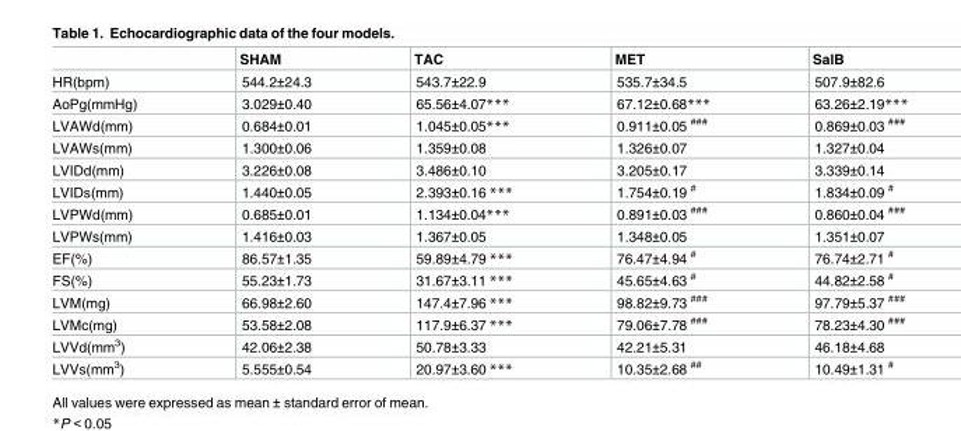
<table><thead><tr><td></td><td>SHAM</td><td>TAC</td><td>MET</td><td>SalB</td></tr></thead><tbody><tr><td>HR(bpm)</td><td>544.2±24.3</td><td>543.7±22.9</td><td>535.7±34.5</td><td>507.9±82.6</td></tr><tr><td>AoPg(mmHg)</td><td>3.029±0.40</td><td>65.56±4.07***</td><td>67.12±0.68***</td><td>63.26±2.19***</td></tr><tr><td>LVAWd(mm)</td><td>0.684±0.01</td><td>1.045±0.05***</td><td>0.911±0.05 <sup>###</sup></td><td>0.869±0.03 <sup>###</sup></td></tr><tr><td>LVAWs(mm)</td><td>1.300±0.06</td><td>1.359±0.08</td><td>1.326±0.07</td><td>1.327±0.04</td></tr><tr><td>LVIDd(mm)</td><td>3.226±0.08</td><td>3.486±0.10</td><td>3.205±0.17</td><td>3.339±0.14</td></tr><tr><td>LVIDs(mm)</td><td>1.440±0.05</td><td>2.393±0.16 ***</td><td>1.754±0.19 <sup>#</sup></td><td>1.834±0.09 <sup>#</sup></td></tr><tr><td>LVPWd(mm)</td><td>0.685±0.01</td><td>1.134±0.04***</td><td>0.891±0.03 <sup>###</sup></td><td>0.860±0.04 <sup>###</sup></td></tr><tr><td>LVPWs(mm)</td><td>1.416±0.03</td><td>1.367±0.05</td><td>1.348±0.05</td><td>1.351±0.07</td></tr><tr><td>EF(%)</td><td>86.57±1.35</td><td>59.89±4.79 ***</td><td>76.47±4.94 <sup>#</sup></td><td>76.74±2.71 <sup>#</sup></td></tr><tr><td>FS(%)</td><td>55.23±1.73</td><td>31.67±3.11 ***</td><td>45.65±4.63 <sup>#</sup></td><td>44.82±2.58 <sup>#</sup></td></tr><tr><td>LVM(mg)</td><td>66.98±2.60</td><td>147.4±7.96 ***</td><td>98.82±9.73 <sup>###</sup></td><td>97.79±5.37 <sup>###</sup></td></tr><tr><td>LVMc(mg)</td><td>53.58±2.08</td><td>117.9±6.37 ***</td><td>79.06±7.78 <sup>###</sup></td><td>78.23±4.30 <sup>###</sup></td></tr><tr><td>LVVd(mm<sup>3</sup>)</td><td>42.06±2.38</td><td>50.78±3.33</td><td>42.21±5.31</td><td>46.18±4.68</td></tr><tr><td>LVVs(mm<sup>3</sup>)</td><td>5.555±0.54</td><td>20.97±3.60 ***</td><td>10.35±2.68 <sup>##</sup></td><td>10.49±1.31 <sup>#</sup></td></tr></tbody></table>